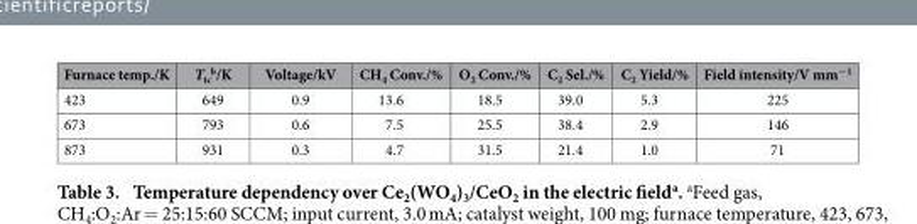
<table><thead><tr><td>Furnace temp./K</td><td>T<sub>tc</sub> <sup>b</sup>/K</td><td>Voltage/kV</td><td>CH<sub>4</sub> Conv./%</td><td>O<sub>2</sub> Conv./%</td><td>C<sub>2</sub> Sel./%</td><td>C<sub>2</sub> Yield/%</td><td>Field intensity/V mm<sup>−1</sup></td></tr></thead><tbody><tr><td>423</td><td>649</td><td>0.9</td><td>13.6</td><td>18.5</td><td>39.0</td><td>5.3</td><td>225</td></tr><tr><td>673</td><td>793</td><td>0.6</td><td>7.5</td><td>25.5</td><td>38.4</td><td>2.9</td><td>146</td></tr><tr><td>873</td><td>931</td><td>0.3</td><td>4.7</td><td>31.5</td><td>21.4</td><td>1.0</td><td>71</td></tr></tbody></table>